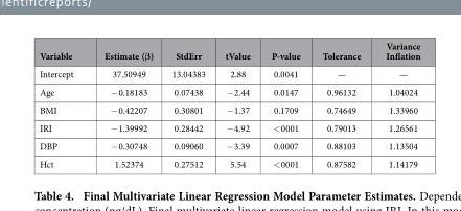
<table><thead><tr><td>Variable</td><td>Estimate (β)</td><td>StdErr</td><td>tValue</td><td>P-value</td><td>Tolerance</td><td>Variance Inflation</td></tr></thead><tbody><tr><td>Intercept</td><td>37.50949</td><td>13.04383</td><td>2.88</td><td>0.0041</td><td>—</td><td>—</td></tr><tr><td>Age</td><td>− 0.18183</td><td>0.07438</td><td>− 2.44</td><td>0.0147</td><td>0.96132</td><td>1.04024</td></tr><tr><td>BMI</td><td>− 0.42207</td><td>0.30801</td><td>− 1.37</td><td>0.1709</td><td>0.74649</td><td>1.33960</td></tr><tr><td>IRI</td><td>− 1.39992</td><td>0.28442</td><td>− 4.92</td><td>&lt; 0001</td><td>0.79013</td><td>1.26561</td></tr><tr><td>DBP</td><td>− 0.30748</td><td>0.09060</td><td>− 3.39</td><td>0.0007</td><td>0.88103</td><td>1.13504</td></tr><tr><td>Hct</td><td>1.52374</td><td>0.27512</td><td>5.54</td><td>&lt; 0001</td><td>0.87582</td><td>1.14179</td></tr></tbody></table>